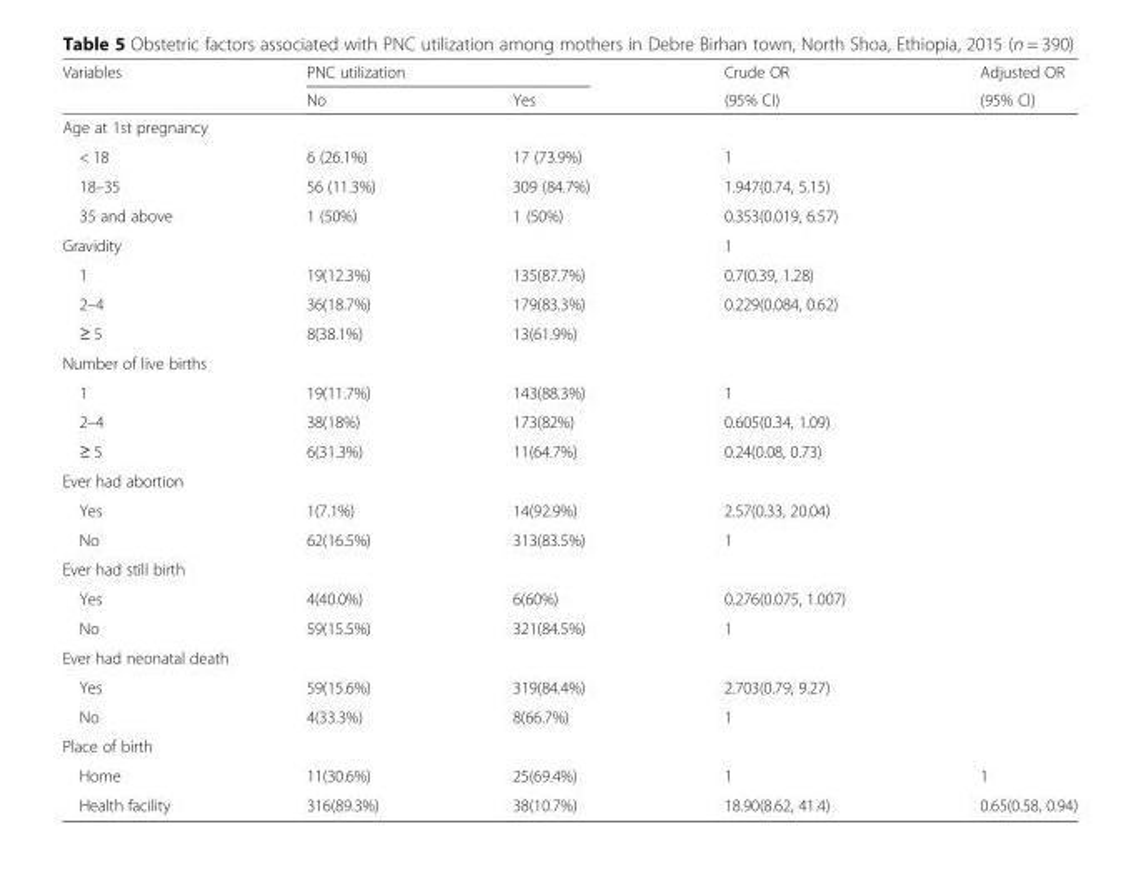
<table><thead><tr><td rowspan="2">Variables</td><td colspan="2">PNC utilization</td><td rowspan="2">Crude OR (95% CI)</td><td rowspan="2">Adjusted OR (95% CI)</td></tr><tr><td>No</td><td>Yes</td></tr></thead><tbody><tr><td colspan="5">Age at 1st pregnancy</td></tr><tr><td>&lt; 18</td><td>6 (26.1%)</td><td>17 (73.9%)</td><td>1</td><td rowspan="3"></td></tr><tr><td>18–35</td><td>56 (11.3%)</td><td>309 (84.7%)</td><td>1.947(0.74, 5.15)</td></tr><tr><td>35 and above</td><td>1 (50%)</td><td>1 (50%)</td><td>0.353(0.019, 6.57)</td></tr><tr><td colspan="3">Gravidity</td><td>1</td><td></td></tr><tr><td>1</td><td>19(12.3%)</td><td>135(87.7%)</td><td>0.7(0.39, 1.28)</td><td rowspan="3"></td></tr><tr><td>2–4</td><td>36(18.7%)</td><td>179(83.3%)</td><td>0.229(0.084, 0.62)</td></tr><tr><td>≥ 5</td><td>8(38.1%)</td><td>13(61.9%)</td><td></td></tr><tr><td colspan="5">Number of live births</td></tr><tr><td>1</td><td>19(11.7%)</td><td>143(88.3%)</td><td>1</td><td rowspan="3"></td></tr><tr><td>2–4</td><td>38(18%)</td><td>173(82%)</td><td>0.605(0.34, 1.09)</td></tr><tr><td>≥ 5</td><td>6(31.3%)</td><td>11(64.7%)</td><td>0.24(0.08, 0.73)</td></tr><tr><td colspan="5">Ever had abortion</td></tr><tr><td>Yes</td><td>1(7.1%)</td><td>14(92.9%)</td><td>2.57(0.33, 20.04)</td><td rowspan="2"></td></tr><tr><td>No</td><td>62(16.5%)</td><td>313(83.5%)</td><td>1</td></tr><tr><td colspan="5">Ever had still birth</td></tr><tr><td>Yes</td><td>4(40.0%)</td><td>6(60%)</td><td>0.276(0.075, 1.007)</td><td rowspan="2"></td></tr><tr><td>No</td><td>59(15.5%)</td><td>321(84.5%)</td><td>1</td></tr><tr><td colspan="5">Ever had neonatal death</td></tr><tr><td>Yes</td><td>59(15.6%)</td><td>319(84.4%)</td><td>2.703(0.79, 9.27)</td><td rowspan="2"></td></tr><tr><td>No</td><td>4(33.3%)</td><td>8(66.7%)</td><td>1</td></tr><tr><td colspan="5">Place of birth</td></tr><tr><td>Home</td><td>11(30.6%)</td><td>25(69.4%)</td><td>1</td><td>1</td></tr><tr><td>Health facility</td><td>316(89.3%)</td><td>38(10.7%)</td><td>18.90(8.62, 41.4)</td><td>0.65(0.58, 0.94)</td></tr></tbody></table>